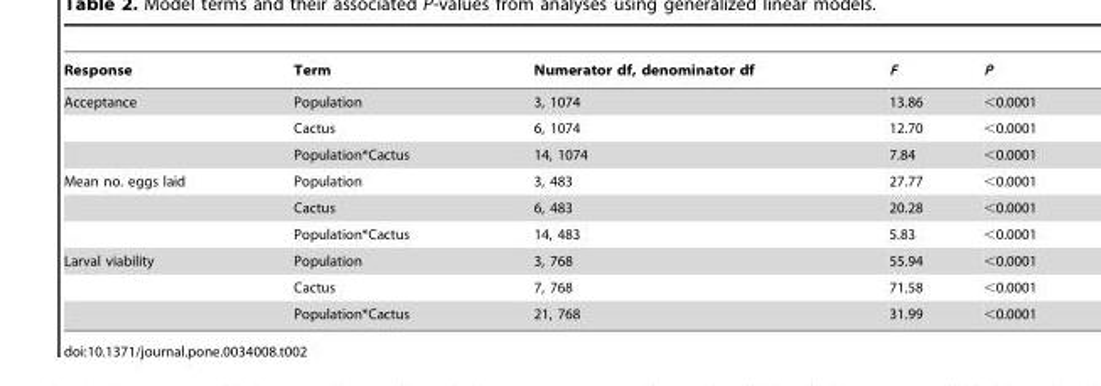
<table><thead><tr><td>Response</td><td>Term</td><td>Numerator df, denominator df</td><td>F</td><td>P</td></tr></thead><tbody><tr><td rowspan="3">Acceptance</td><td>Population</td><td>3, 1074</td><td>13.86</td><td>&lt;0.0001</td></tr><tr><td>Cactus</td><td>6, 1074</td><td>12.70</td><td>&lt;0.0001</td></tr><tr><td>Population*Cactus</td><td>14, 1074</td><td>7.84</td><td>&lt;0.0001</td></tr><tr><td rowspan="3">Mean no. eggs laid</td><td>Population</td><td>3, 483</td><td>27.77</td><td>&lt;0.0001</td></tr><tr><td>Cactus</td><td>6, 483</td><td>20.28</td><td>&lt;0.0001</td></tr><tr><td>Population*Cactus</td><td>14, 483</td><td>5.83</td><td>&lt;0.0001</td></tr><tr><td rowspan="3">Larval viability</td><td>Population</td><td>3, 768</td><td>55.94</td><td>&lt;0.0001</td></tr><tr><td>Cactus</td><td>7, 768</td><td>71.58</td><td>&lt;0.0001</td></tr><tr><td>Population*Cactus</td><td>21, 768</td><td>31.99</td><td>&lt;0.0001</td></tr></tbody></table>